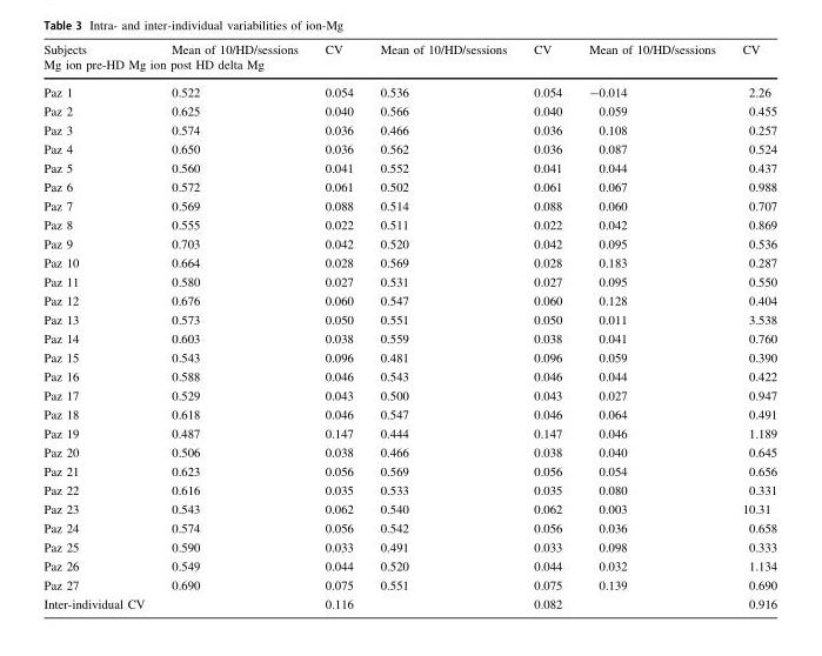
<table><thead><tr><td>Subjects</td><td>Mean of 10/HD/sessions</td><td>CV</td><td>Mean of 10/HD/sessions</td><td>CV</td><td>Mean of 10/HD/sessions</td><td>CV</td></tr><tr><td colspan="7">Mg ion pre-HD Mg ion post HD delta Mg</td></tr></thead><tbody><tr><td>Paz 1</td><td>0.522</td><td>0.054</td><td>0.536</td><td>0.054</td><td>-0.014</td><td>2.26</td></tr><tr><td>Paz 2</td><td>0.625</td><td>0.040</td><td>0.566</td><td>0.040</td><td>0.059</td><td>0.455</td></tr><tr><td>Paz 3</td><td>0.574</td><td>0.036</td><td>0.466</td><td>0.036</td><td>0.108</td><td>0.257</td></tr><tr><td>Paz 4</td><td>0.650</td><td>0.036</td><td>0.562</td><td>0.036</td><td>0.087</td><td>0.524</td></tr><tr><td>Paz 5</td><td>0.560</td><td>0.041</td><td>0.552</td><td>0.041</td><td>0.044</td><td>0.437</td></tr><tr><td>Paz 6</td><td>0.572</td><td>0.061</td><td>0.502</td><td>0.061</td><td>0.067</td><td>0.988</td></tr><tr><td>Paz 7</td><td>0.569</td><td>0.088</td><td>0.514</td><td>0.088</td><td>0.060</td><td>0.707</td></tr><tr><td>Paz 8</td><td>0.555</td><td>0.022</td><td>0.511</td><td>0.022</td><td>0.042</td><td>0.869</td></tr><tr><td>Paz 9</td><td>0.703</td><td>0.042</td><td>0.520</td><td>0.042</td><td>0.095</td><td>0.536</td></tr><tr><td>Paz 10</td><td>0.664</td><td>0.028</td><td>0.569</td><td>0.028</td><td>0.183</td><td>0.287</td></tr><tr><td>Paz 11</td><td>0.580</td><td>0.027</td><td>0.531</td><td>0.027</td><td>0.095</td><td>0.550</td></tr><tr><td>Paz 12</td><td>0.676</td><td>0.060</td><td>0.547</td><td>0.060</td><td>0.128</td><td>0.404</td></tr><tr><td>Paz 13</td><td>0.573</td><td>0.050</td><td>0.551</td><td>0.050</td><td>0.011</td><td>3.538</td></tr><tr><td>Paz 14</td><td>0.603</td><td>0.038</td><td>0.559</td><td>0.038</td><td>0.041</td><td>0.760</td></tr><tr><td>Paz 15</td><td>0.543</td><td>0.096</td><td>0.481</td><td>0.096</td><td>0.059</td><td>0.390</td></tr><tr><td>Paz 16</td><td>0.588</td><td>0.046</td><td>0.543</td><td>0.046</td><td>0.044</td><td>0.422</td></tr><tr><td>Paz 17</td><td>0.529</td><td>0.043</td><td>0.500</td><td>0.043</td><td>0.027</td><td>0.947</td></tr><tr><td>Paz 18</td><td>0.618</td><td>0.046</td><td>0.547</td><td>0.046</td><td>0.064</td><td>0.491</td></tr><tr><td>Paz 19</td><td>0.487</td><td>0.147</td><td>0.444</td><td>0.147</td><td>0.046</td><td>1.189</td></tr><tr><td>Paz 20</td><td>0.506</td><td>0.038</td><td>0.466</td><td>0.038</td><td>0.040</td><td>0.645</td></tr><tr><td>Paz 21</td><td>0.623</td><td>0.056</td><td>0.569</td><td>0.056</td><td>0.054</td><td>0.656</td></tr><tr><td>Paz 22</td><td>0.616</td><td>0.035</td><td>0.533</td><td>0.035</td><td>0.080</td><td>0.331</td></tr><tr><td>Paz 23</td><td>0.543</td><td>0.062</td><td>0.540</td><td>0.062</td><td>0.003</td><td>10.31</td></tr><tr><td>Paz 24</td><td>0.574</td><td>0.056</td><td>0.542</td><td>0.056</td><td>0.036</td><td>0.658</td></tr><tr><td>Paz 25</td><td>0.590</td><td>0.033</td><td>0.491</td><td>0.033</td><td>0.098</td><td>0.333</td></tr><tr><td>Paz 26</td><td>0.549</td><td>0.044</td><td>0.520</td><td>0.044</td><td>0.032</td><td>1.134</td></tr><tr><td>Paz 27</td><td>0.690</td><td>0.075</td><td>0.551</td><td>0.075</td><td>0.139</td><td>0.690</td></tr><tr><td>Inter-individual CV</td><td></td><td>0.116</td><td></td><td>0.082</td><td></td><td>0.916</td></tr></tbody></table>